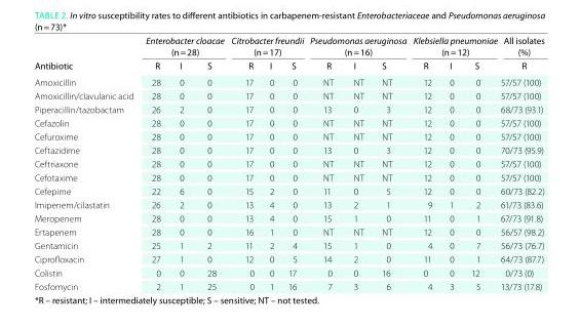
<table><thead><tr><td rowspan="2">Antibiotic</td><td colspan="3">Enterobacter cloacae (n = 28)</td><td colspan="3">Citrobacter freundii (n = 17)</td><td colspan="3">Pseudomonas aeruginosa (n = 16)</td><td colspan="3">Klebsiella pneumoniae (n = 12)</td><td rowspan="2">All isolates (%) R</td></tr><tr><td>R</td><td>I</td><td>S</td><td>R</td><td>I</td><td>S</td><td>R</td><td>I</td><td>S</td><td>R</td><td>I</td><td>S</td></tr></thead><tbody><tr><td>Amoxicillin</td><td>28</td><td>0</td><td>0</td><td>17</td><td>0</td><td>0</td><td>NT</td><td>NT</td><td>NT</td><td>12</td><td>0</td><td>0</td><td>57/57 (100)</td></tr><tr><td>Amoxicillin/clavulanic acid</td><td>28</td><td>0</td><td>0</td><td>17</td><td>0</td><td>0</td><td>NT</td><td>NT</td><td>NT</td><td>12</td><td>0</td><td>0</td><td>57/57 (100)</td></tr><tr><td>Piperacillin/tazobactam</td><td>26</td><td>2</td><td>0</td><td>17</td><td>0</td><td>0</td><td>13</td><td>0</td><td>3</td><td>12</td><td>0</td><td>0</td><td>68/73 (93.1)</td></tr><tr><td>Cefazolin</td><td>28</td><td>0</td><td>0</td><td>17</td><td>0</td><td>0</td><td>NT</td><td>NT</td><td>NT</td><td>12</td><td>0</td><td>0</td><td>57/57 (100)</td></tr><tr><td>Cefuroxime</td><td>28</td><td>0</td><td>0</td><td>17</td><td>0</td><td>0</td><td>NT</td><td>NT</td><td>NT</td><td>12</td><td>0</td><td>0</td><td>57/57 (100)</td></tr><tr><td>Ceftazidime</td><td>28</td><td>0</td><td>0</td><td>17</td><td>0</td><td>0</td><td>13</td><td>0</td><td>3</td><td>12</td><td>0</td><td>0</td><td>70/73 (95.9)</td></tr><tr><td>Ceftriaxone</td><td>28</td><td>0</td><td>0</td><td>17</td><td>0</td><td>0</td><td>NT</td><td>NT</td><td>NT</td><td>12</td><td>0</td><td>0</td><td>57/57 (100)</td></tr><tr><td>Cefotaxime</td><td>28</td><td>0</td><td>0</td><td>17</td><td>0</td><td>0</td><td>NT</td><td>NT</td><td>NT</td><td>12</td><td>0</td><td>0</td><td>57/57 (100)</td></tr><tr><td>Cefepime</td><td>22</td><td>6</td><td>0</td><td>15</td><td>2</td><td>0</td><td>11</td><td>0</td><td>5</td><td>12</td><td>0</td><td>0</td><td>60/73 (82.2)</td></tr><tr><td>Imipenem/cilastatin</td><td>26</td><td>2</td><td>0</td><td>13</td><td>4</td><td>0</td><td>13</td><td>2</td><td>1</td><td>9</td><td>1</td><td>2</td><td>61/73 (83.6)</td></tr><tr><td>Meropenem</td><td>28</td><td>0</td><td>0</td><td>13</td><td>4</td><td>0</td><td>15</td><td>1</td><td>0</td><td>11</td><td>0</td><td>1</td><td>67/73 (91.8)</td></tr><tr><td>Ertapenem</td><td>28</td><td>0</td><td>0</td><td>16</td><td>1</td><td>0</td><td>NT</td><td>NT</td><td>NT</td><td>12</td><td>0</td><td>0</td><td>56/57 (98.2)</td></tr><tr><td>Gentamicin</td><td>25</td><td>1</td><td>2</td><td>11</td><td>2</td><td>4</td><td>15</td><td>1</td><td>0</td><td>4</td><td>0</td><td>7</td><td>56/73 (76.7)</td></tr><tr><td>Ciprofloxacin</td><td>27</td><td>1</td><td>0</td><td>12</td><td>0</td><td>5</td><td>14</td><td>2</td><td>0</td><td>11</td><td>0</td><td>1</td><td>64/73 (87.7)</td></tr><tr><td>Colistin</td><td>0</td><td>0</td><td>28</td><td>0</td><td>0</td><td>17</td><td>0</td><td>0</td><td>16</td><td>0</td><td>0</td><td>12</td><td>0/73 (0)</td></tr><tr><td>Fosfomycin</td><td>2</td><td>1</td><td>25</td><td>0</td><td>1</td><td>16</td><td>7</td><td>3</td><td>6</td><td>4</td><td>3</td><td>5</td><td>13/73 (17.8)</td></tr></tbody></table>